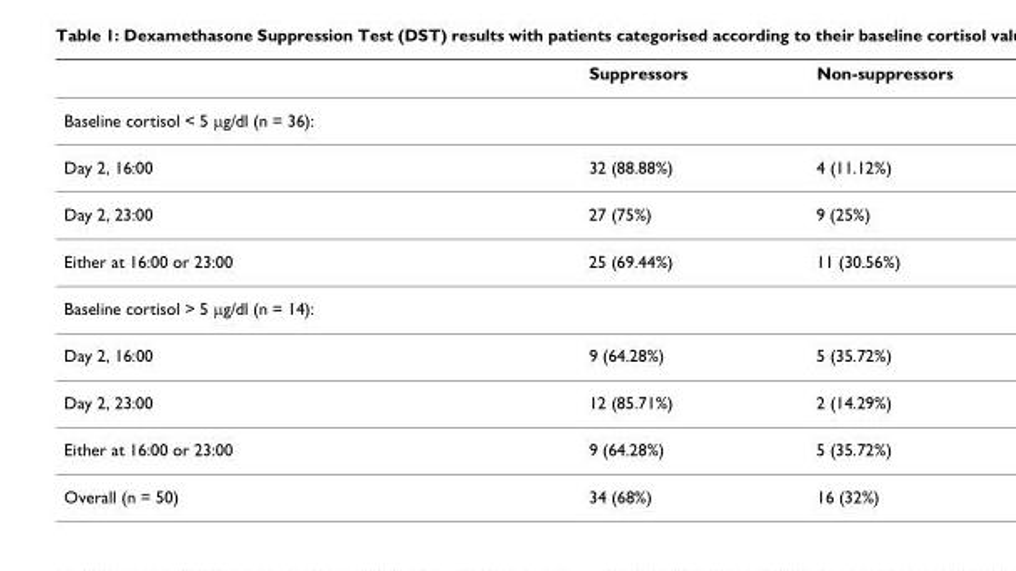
<table><thead><tr><td></td><td>Suppressors</td><td>Non-suppressors</td></tr></thead><tbody><tr><td colspan="3">Baseline cortisol &lt; 5 μg/dl (n = 36):</td></tr><tr><td>Day 2, 16:00</td><td>32 (88.88%)</td><td>4 (11.12%)</td></tr><tr><td>Day 2, 23:00</td><td>27 (75%)</td><td>9 (25%)</td></tr><tr><td>Either at 16:00 or 23:00</td><td>25 (69.44%)</td><td>11 (30.56%)</td></tr><tr><td colspan="3">Baseline cortisol &gt; 5 μg/dl (n = 14):</td></tr><tr><td>Day 2, 16:00</td><td>9 (64.28%)</td><td>5 (35.72%)</td></tr><tr><td>Day 2, 23:00</td><td>12 (85.71%)</td><td>2 (14.29%)</td></tr><tr><td>Either at 16:00 or 23:00</td><td>9 (64.28%)</td><td>5 (35.72%)</td></tr><tr><td>Overall (n = 50)</td><td>34 (68%)</td><td>16 (32%)</td></tr></tbody></table>